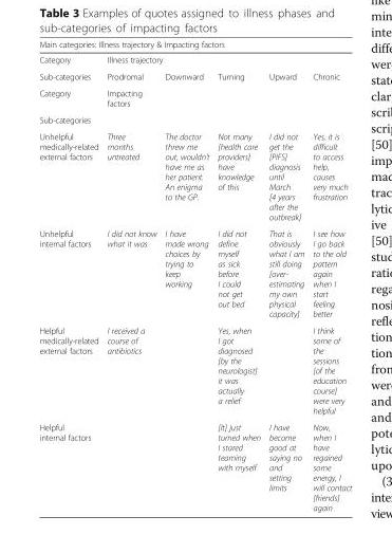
<table><thead><tr><td colspan="6">Main categories: Illness trajectory &amp; Impacting factors</td></tr><tr><td rowspan="2">Category Sub-categories</td><td colspan="5">Illness trajectory</td></tr><tr><td>Prodromal</td><td>Downward</td><td>Turning</td><td>Upward</td><td>Chronic</td></tr></thead><tbody><tr><td>Category</td><td colspan="5">Impacting factors</td></tr><tr><td colspan="6">Sub-categories</td></tr><tr><td>Unhelpful medically-related external factors</td><td>Three months untreated</td><td>The doctor threw me out, wouldn’t have me as her patient. An enigma to the GP.</td><td>Not many [health care providers] have knowledge of this</td><td>I did not get the [PIFS] diagnosis until March [4 years after the outbreak]</td><td>Yes, it is difficult to access help, causes very much frustration</td></tr><tr><td>Unhelpful internal factors</td><td>I did not know what it was</td><td>I have made wrong choices by trying to keep working</td><td>I did not define myself as sick before I could not get out bed</td><td>That is obviously what I am still doing [over- estimating my own physical capacity]</td><td>I see how I go back to the old pattern again when I start feeling better</td></tr><tr><td>Helpful medically-related external factors</td><td>I received a course of antibiotics</td><td></td><td>Yes, when I got diagnosed [by the neurologist] it was actually a relief</td><td></td><td>I think some of the sessions [of the education course] were very helpful</td></tr><tr><td>Helpful internal factors</td><td></td><td></td><td>[It] just turned when I stared teaming with myself</td><td>I have become good at saying no and setting limits</td><td>Now, when I have regained some energy, I will contact [friends] again</td></tr></tbody></table>